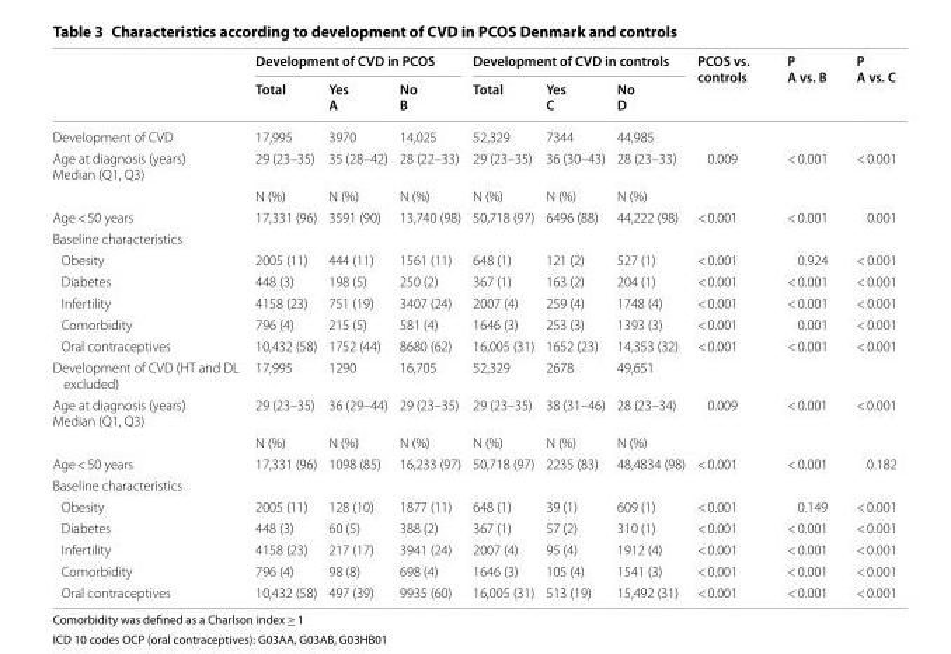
<table><thead><tr><td rowspan="2"></td><td colspan="3">Development of CVD in PCOS</td><td colspan="3">Development of CVD in controls</td><td rowspan="2">PCOS vs. controls</td><td rowspan="2">P A vs. B</td><td rowspan="2">P A vs. C</td></tr><tr><td>Total</td><td>Yes A</td><td>No B</td><td>Total</td><td>Yes C</td><td>No D</td></tr></thead><tbody><tr><td>Development of CVD</td><td>17,995</td><td>3970</td><td>14,025</td><td>52,329</td><td>7344</td><td>44,985</td><td></td><td></td><td></td></tr><tr><td rowspan="2">Age at diagnosis (years) Median (Q1, Q3)</td><td>29 (23–35)</td><td>35 (28–42)</td><td>28 (22–33)</td><td>29 (23–35)</td><td>36 (30–43)</td><td>28 (23–33)</td><td>0.009</td><td>&lt; 0.001</td><td>&lt; 0.001</td></tr><tr><td>N (%)</td><td>N (%)</td><td>N (%)</td><td>N (%)</td><td>N (%)</td><td>N (%)</td><td></td><td></td><td></td></tr><tr><td>Age &lt; 50 years</td><td>17,331 (96)</td><td>3591 (90)</td><td>13,740 (98)</td><td>50,718 (97)</td><td>6496 (88)</td><td>44,222 (98)</td><td>&lt; 0.001</td><td>&lt; 0.001</td><td>0.001</td></tr><tr><td colspan="10">Baseline characteristics</td></tr><tr><td>Obesity</td><td>2005 (11)</td><td>444 (11)</td><td>1561 (11)</td><td>648 (1)</td><td>121 (2)</td><td>527 (1)</td><td>&lt; 0.001</td><td>0.924</td><td>&lt; 0.001</td></tr><tr><td>Diabetes</td><td>448 (3)</td><td>198 (5)</td><td>250 (2)</td><td>367 (1)</td><td>163 (2)</td><td>204 (1)</td><td>&lt; 0.001</td><td>&lt; 0.001</td><td>&lt; 0.001</td></tr><tr><td>Infertility</td><td>4158 (23)</td><td>751 (19)</td><td>3407 (24)</td><td>2007 (4)</td><td>259 (4)</td><td>1748 (4)</td><td>&lt; 0.001</td><td>&lt; 0.001</td><td>&lt; 0.001</td></tr><tr><td>Comorbidity</td><td>796 (4)</td><td>215 (5)</td><td>581 (4)</td><td>1646 (3)</td><td>253 (3)</td><td>1393 (3)</td><td>&lt; 0.001</td><td>0.001</td><td>&lt; 0.001</td></tr><tr><td>Oral contraceptives</td><td>10,432 (58)</td><td>1752 (44)</td><td>8680 (62)</td><td>16,005 (31)</td><td>1652 (23)</td><td>14,353 (32)</td><td>&lt; 0.001</td><td>&lt; 0.001</td><td>&lt; 0.001</td></tr><tr><td>Development of CVD (HT and DL excluded)</td><td>17,995</td><td>1290</td><td>16,705</td><td>52,329</td><td>2678</td><td>49,651</td><td></td><td></td><td></td></tr><tr><td rowspan="2">Age at diagnosis (years) Median (Q1, Q3)</td><td>29 (23–35)</td><td>36 (29–44)</td><td>29 (23–35)</td><td>29 (23–35)</td><td>38 (31–46)</td><td>28 (23–34)</td><td>0.009</td><td>&lt; 0.001</td><td>&lt; 0.001</td></tr><tr><td>N (%)</td><td>N (%)</td><td>N (%)</td><td>N (%)</td><td>N (%)</td><td>N (%)</td><td></td><td></td><td></td></tr><tr><td>Age &lt; 50 years</td><td>17,331 (96)</td><td>1098 (85)</td><td>16,233 (97)</td><td>50,718 (97)</td><td>2235 (83)</td><td>48,4834 (98)</td><td>&lt; 0.001</td><td>&lt; 0.001</td><td>0.182</td></tr><tr><td colspan="10">Baseline characteristics</td></tr><tr><td>Obesity</td><td>2005 (11)</td><td>128 (10)</td><td>1877 (11)</td><td>648 (1)</td><td>39 (1)</td><td>609 (1)</td><td>&lt; 0.001</td><td>0.149</td><td>&lt; 0.001</td></tr><tr><td>Diabetes</td><td>448 (3)</td><td>60 (5)</td><td>388 (2)</td><td>367 (1)</td><td>57 (2)</td><td>310 (1)</td><td>&lt; 0.001</td><td>&lt; 0.001</td><td>&lt; 0.001</td></tr><tr><td>Infertility</td><td>4158 (23)</td><td>217 (17)</td><td>3941 (24)</td><td>2007 (4)</td><td>95 (4)</td><td>1912 (4)</td><td>&lt; 0.001</td><td>&lt; 0.001</td><td>&lt; 0.001</td></tr><tr><td>Comorbidity</td><td>796 (4)</td><td>98 (8)</td><td>698 (4)</td><td>1646 (3)</td><td>105 (4)</td><td>1541 (3)</td><td>&lt; 0.001</td><td>&lt; 0.001</td><td>&lt; 0.001</td></tr><tr><td>Oral contraceptives</td><td>10,432 (58)</td><td>497 (39)</td><td>9935 (60)</td><td>16,005 (31)</td><td>513 (19)</td><td>15,492 (31)</td><td>&lt; 0.001</td><td>&lt; 0.001</td><td>&lt; 0.001</td></tr></tbody></table>